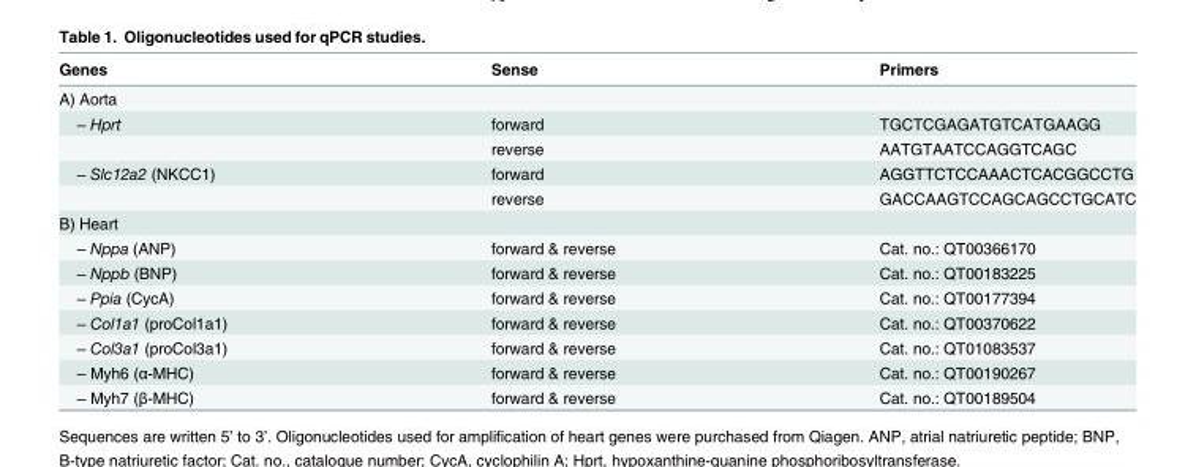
<table><thead><tr><td>Genes</td><td>Sense</td><td>Primers</td></tr></thead><tbody><tr><td colspan="3">A) Aorta</td></tr><tr><td rowspan="2">‒ Hprt</td><td>forward</td><td>TGCTCGAGATGTCATGAAGG</td></tr><tr><td>reverse</td><td>AATGTAATCCAGGTCAGC</td></tr><tr><td rowspan="2">‒ Slc12a2 (NKCC1)</td><td>forward</td><td>AGGTTCTCCAAACTCACGGCCTG</td></tr><tr><td>reverse</td><td>GACCAAGTCCAGCAGCCTGCATC</td></tr><tr><td colspan="3">B) Heart</td></tr><tr><td>‒ Nppa (ANP)</td><td>forward &amp; reverse</td><td>Cat. no.: QT00366170</td></tr><tr><td>‒ Nppb (BNP)</td><td>forward &amp; reverse</td><td>Cat. no.: QT00183225</td></tr><tr><td>‒ Ppia (CycA)</td><td>forward &amp; reverse</td><td>Cat. no.: QT00177394</td></tr><tr><td>‒ Col1a1 (proCol1a1)</td><td>forward &amp; reverse</td><td>Cat. no.: QT00370622</td></tr><tr><td>‒ Col3a1 (proCol3a1)</td><td>forward &amp; reverse</td><td>Cat. no.: QT01083537</td></tr><tr><td>‒ Myh6 (α-MHC)</td><td>forward &amp; reverse</td><td>Cat. no.: QT00190267</td></tr><tr><td>‒ Myh7 (β-MHC)</td><td>forward &amp; reverse</td><td>Cat. no.: QT00189504</td></tr></tbody></table>